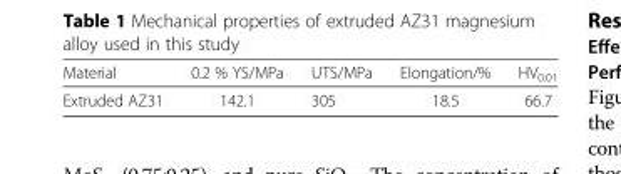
<table><thead><tr><td>Material</td><td>0.2 % YS/MPa</td><td>UTS/MPa</td><td>Elongation/%</td><td>HV<sub>0.01</sub></td></tr></thead><tbody><tr><td>Extruded AZ31</td><td>142.1</td><td>305</td><td>18.5</td><td>66.7</td></tr></tbody></table>